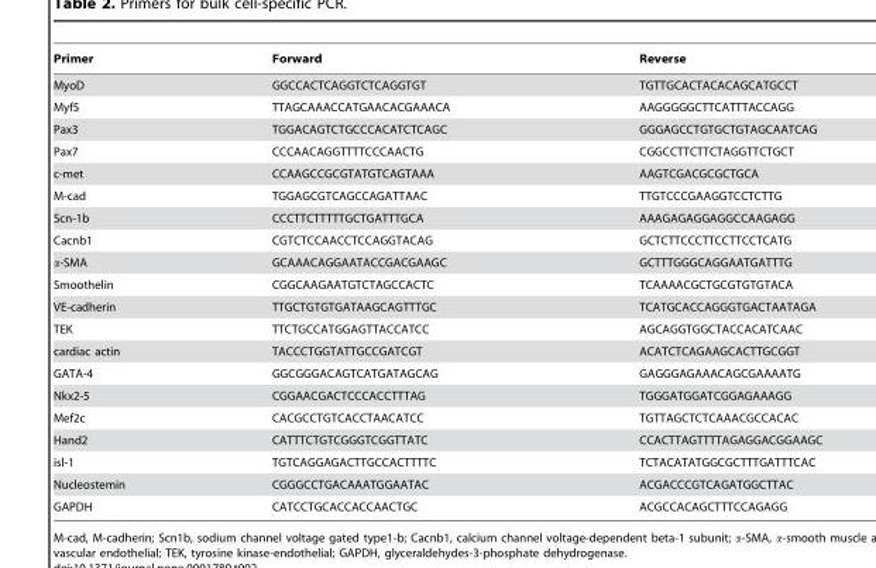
<table><thead><tr><td>Primer</td><td>Forward</td><td>Reverse</td></tr></thead><tbody><tr><td>MyoD</td><td>GGCCACTCAGGTCTCAGGTGT</td><td>TGTTGCACTACACAGCATGCCT</td></tr><tr><td>Myf5</td><td>TTAGCAAACCATGAACACGAAACA</td><td>AAGGGGGCTTCATTTACCAGG</td></tr><tr><td>Pax3</td><td>TGGACAGTCTGCCCACATCTCAGC</td><td>GGGAGCCTGTGCTGTAGCAATCAG</td></tr><tr><td>Pax7</td><td>CCCAACAGGTTTTCCCAACTG</td><td>CGGCCTTCTTCTAGGTTCTGCT</td></tr><tr><td>c-met</td><td>CCAAGCCGCGTATGTCAGTAAA</td><td>AAGTCGACGCGCTGCA</td></tr><tr><td>M-cad</td><td>TGGAGCGTCAGCCAGATTAAC</td><td>TTGTCCCGAAGGTCCTCTTG</td></tr><tr><td>Scn-1b</td><td>CCCTTCTTTTTGCTGATTTGCA</td><td>AAAGAGAGGAGGCCAAGAGG</td></tr><tr><td>Cacnb1</td><td>CGTCTCCAACCTCCAGGTACAG</td><td>GCTCTTCCCTTCCTTCCTCATG</td></tr><tr><td>α-SMA</td><td>GCAAACAGGAATACCGACGAAGC</td><td>GCTTTGGGCAGGAATGATTTG</td></tr><tr><td>Smoothelin</td><td>CGGCAAGAATGTCTAGCCACTC</td><td>TCAAAACGCTGCGTGTGTACA</td></tr><tr><td>VE-cadherin</td><td>TTGCTGTGTGATAAGCAGTTTGC</td><td>TCATGCACCAGGGTGACTAATAGA</td></tr><tr><td>TEK</td><td>TTCTGCCATGGAGTTACCATCC</td><td>AGCAGGTGGCTACCACATCAAC</td></tr><tr><td>cardiac actin</td><td>TACCCTGGTATTGCCGATCGT</td><td>ACATCTCAGAAGCACTTGCGGT</td></tr><tr><td>GATA-4</td><td>GGCGGGACAGTCATGATAGCAG</td><td>GAGGGAGAAACAGCGAAAATG</td></tr><tr><td>Nkx2-5</td><td>CGGAACGACTCCCACCTTTAG</td><td>TGGGATGGATCGGAGAAAGG</td></tr><tr><td>Mef2c</td><td>CACGCCTGTCACCTAACATCC</td><td>TGTTAGCTCTCAAACGCCACAC</td></tr><tr><td>Hand2</td><td>CATTTCTGTCGGGTCGGTTATC</td><td>CCACTTAGTTTTAGAGGACGGAAGC</td></tr><tr><td>isl-1</td><td>TGTCAGGAGACTTGCCACTTTTC</td><td>TCTACATATGGCGCTTTGATTTCAC</td></tr><tr><td>Nucleostemin</td><td>CGGGCCTGACAAATGGAATAC</td><td>ACGACCCGTCAGATGGCTTAC</td></tr><tr><td>GAPDH</td><td>CATCCTGCACCACCAACTGC</td><td>ACGCCACAGCTTTCCAGAGG</td></tr></tbody></table>